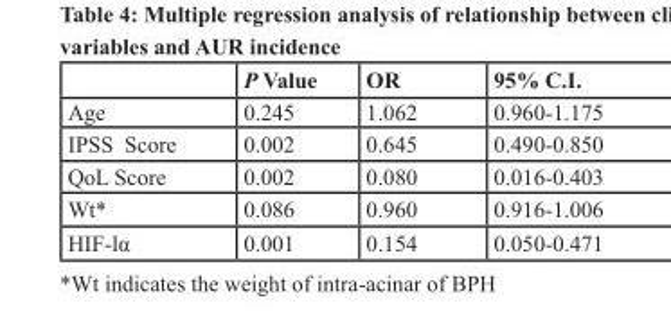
<table><thead><tr><td></td><td>P Value</td><td>OR</td><td>95% C.I.</td></tr></thead><tbody><tr><td>Age</td><td>0.245</td><td>1.062</td><td>0.960-1.175</td></tr><tr><td>IPSS Score</td><td>0.002</td><td>0.645</td><td>0.490-0.850</td></tr><tr><td>QoL Score</td><td>0.002</td><td>0.080</td><td>0.016-0.403</td></tr><tr><td>Wt*</td><td>0.086</td><td>0.960</td><td>0.916-1.006</td></tr><tr><td>HIF-lα</td><td>0.001</td><td>0.154</td><td>0.050-0.471</td></tr></tbody></table>